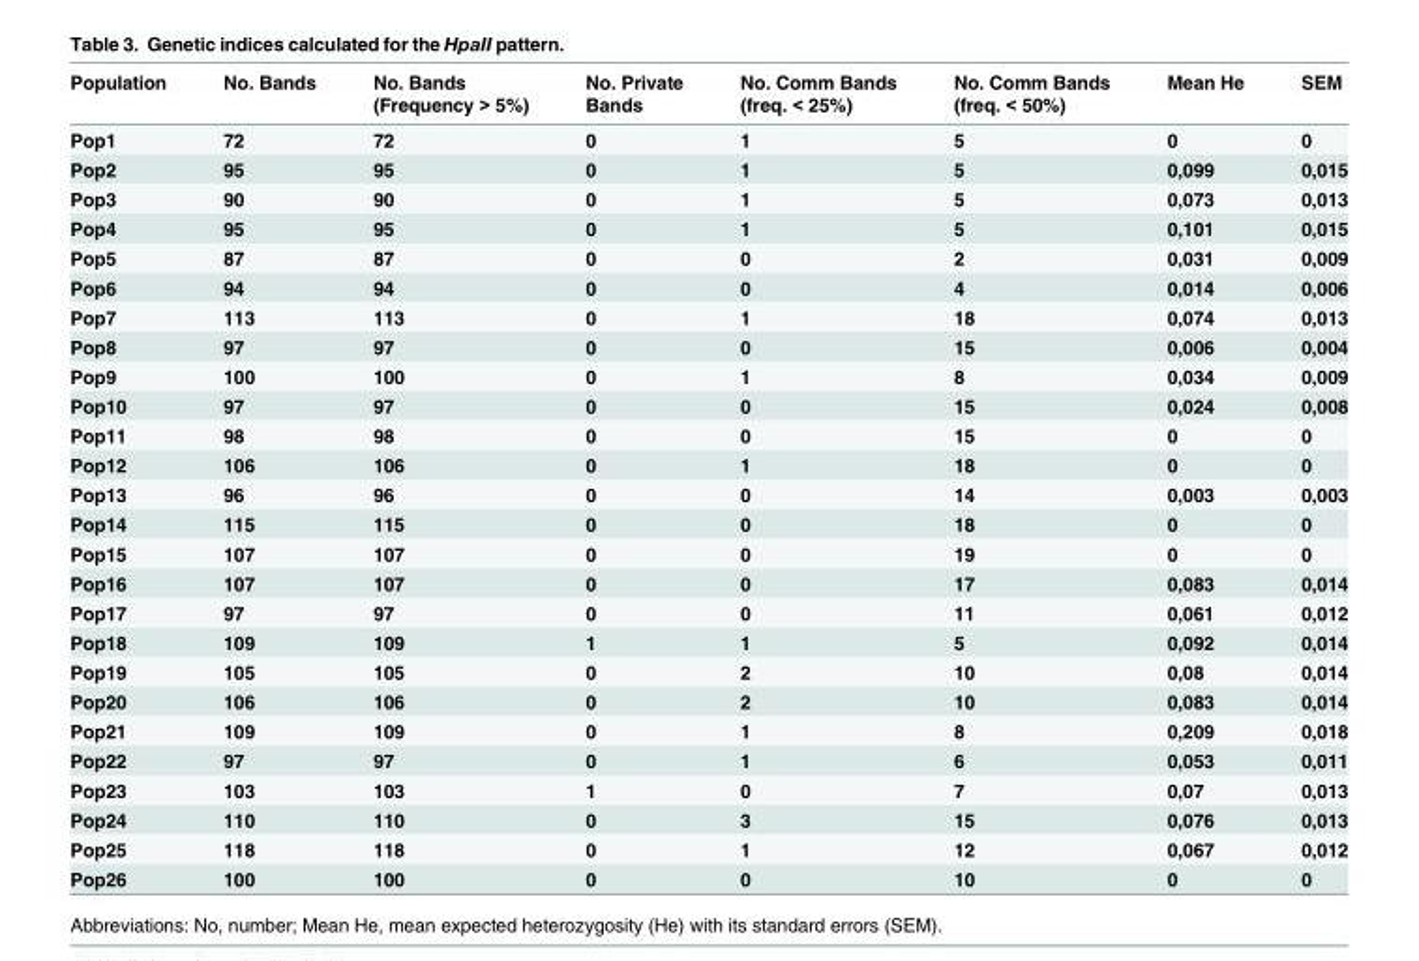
<table><thead><tr><td>Population</td><td>No. Bands</td><td>No. Bands (Frequency &gt; 5%)</td><td>No. Private Bands</td><td>No. Comm Bands (freq. &lt; 25%)</td><td>No. Comm Bands (freq. &lt; 50%)</td><td>Mean He</td><td>SEM</td></tr></thead><tbody><tr><td>Pop1</td><td>72</td><td>72</td><td>0</td><td>1</td><td>5</td><td>0</td><td>0</td></tr><tr><td>Pop2</td><td>95</td><td>95</td><td>0</td><td>1</td><td>5</td><td>0,099</td><td>0,015</td></tr><tr><td>Pop3</td><td>90</td><td>90</td><td>0</td><td>1</td><td>5</td><td>0,073</td><td>0,013</td></tr><tr><td>Pop4</td><td>95</td><td>95</td><td>0</td><td>1</td><td>5</td><td>0,101</td><td>0,015</td></tr><tr><td>Pop5</td><td>87</td><td>87</td><td>0</td><td>0</td><td>2</td><td>0,031</td><td>0,009</td></tr><tr><td>Pop6</td><td>94</td><td>94</td><td>0</td><td>0</td><td>4</td><td>0,014</td><td>0,006</td></tr><tr><td>Pop7</td><td>113</td><td>113</td><td>0</td><td>1</td><td>18</td><td>0,074</td><td>0,013</td></tr><tr><td>Pop8</td><td>97</td><td>97</td><td>0</td><td>0</td><td>15</td><td>0,006</td><td>0,004</td></tr><tr><td>Pop9</td><td>100</td><td>100</td><td>0</td><td>1</td><td>8</td><td>0,034</td><td>0,009</td></tr><tr><td>Pop10</td><td>97</td><td>97</td><td>0</td><td>0</td><td>15</td><td>0,024</td><td>0,008</td></tr><tr><td>Pop11</td><td>98</td><td>98</td><td>0</td><td>0</td><td>15</td><td>0</td><td>0</td></tr><tr><td>Pop12</td><td>106</td><td>106</td><td>0</td><td>1</td><td>18</td><td>0</td><td>0</td></tr><tr><td>Pop13</td><td>96</td><td>96</td><td>0</td><td>0</td><td>14</td><td>0,003</td><td>0,003</td></tr><tr><td>Pop14</td><td>115</td><td>115</td><td>0</td><td>0</td><td>18</td><td>0</td><td>0</td></tr><tr><td>Pop15</td><td>107</td><td>107</td><td>0</td><td>0</td><td>19</td><td>0</td><td>0</td></tr><tr><td>Pop16</td><td>107</td><td>107</td><td>0</td><td>0</td><td>17</td><td>0,083</td><td>0,014</td></tr><tr><td>Pop17</td><td>97</td><td>97</td><td>0</td><td>0</td><td>11</td><td>0,061</td><td>0,012</td></tr><tr><td>Pop18</td><td>109</td><td>109</td><td>1</td><td>1</td><td>5</td><td>0,092</td><td>0,014</td></tr><tr><td>Pop19</td><td>105</td><td>105</td><td>0</td><td>2</td><td>10</td><td>0,08</td><td>0,014</td></tr><tr><td>Pop20</td><td>106</td><td>106</td><td>0</td><td>2</td><td>10</td><td>0,083</td><td>0,014</td></tr><tr><td>Pop21</td><td>109</td><td>109</td><td>0</td><td>1</td><td>8</td><td>0,209</td><td>0,018</td></tr><tr><td>Pop22</td><td>97</td><td>97</td><td>0</td><td>1</td><td>6</td><td>0,053</td><td>0,011</td></tr><tr><td>Pop23</td><td>103</td><td>103</td><td>1</td><td>0</td><td>7</td><td>0,07</td><td>0,013</td></tr><tr><td>Pop24</td><td>110</td><td>110</td><td>0</td><td>3</td><td>15</td><td>0,076</td><td>0,013</td></tr><tr><td>Pop25</td><td>118</td><td>118</td><td>0</td><td>1</td><td>12</td><td>0,067</td><td>0,012</td></tr><tr><td>Pop26</td><td>100</td><td>100</td><td>0</td><td>0</td><td>10</td><td>0</td><td>0</td></tr></tbody></table>